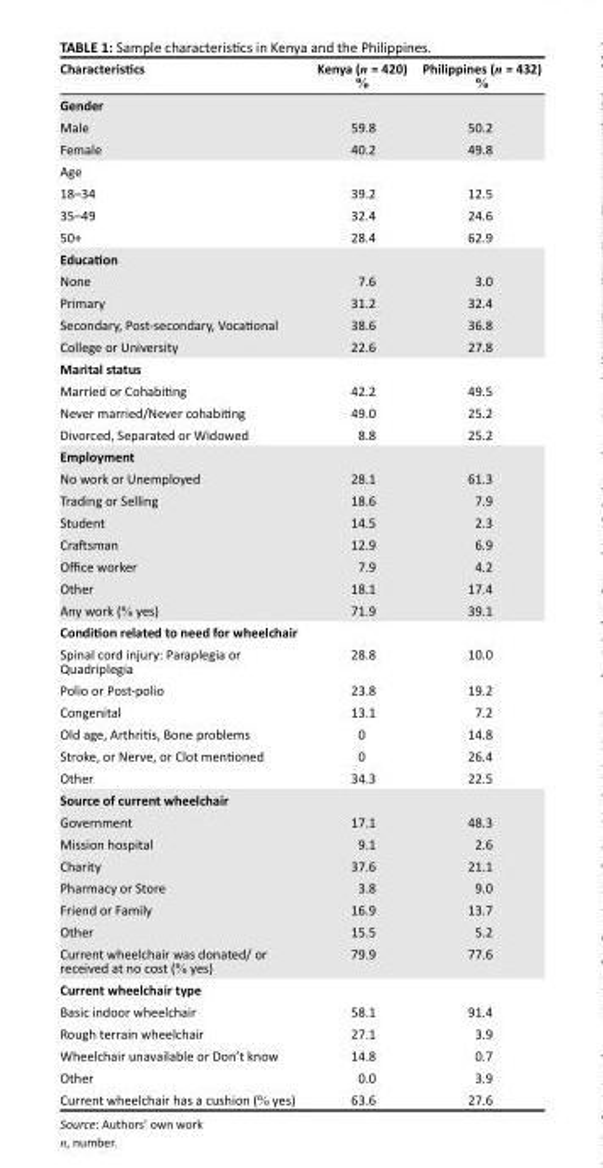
<table><thead><tr><td>Characteristics</td><td>Kenya (n = 420) %</td><td>Philippines (n = 432) %</td></tr></thead><tbody><tr><td colspan="3">Gender</td></tr><tr><td>Male</td><td>59.8</td><td>50.2</td></tr><tr><td>Female</td><td>40.2</td><td>49.8</td></tr><tr><td colspan="3">Age</td></tr><tr><td>18–34</td><td>39.2</td><td>12.5</td></tr><tr><td>35–49</td><td>32.4</td><td>24.6</td></tr><tr><td>50+</td><td>28.4</td><td>62.9</td></tr><tr><td colspan="3">Education</td></tr><tr><td>None</td><td>7.6</td><td>3.0</td></tr><tr><td>Primary</td><td>31.2</td><td>32.4</td></tr><tr><td>Secondary, Post-secondary, Vocational</td><td>38.6</td><td>36.8</td></tr><tr><td>College or University</td><td>22.6</td><td>27.8</td></tr><tr><td colspan="3">Marital status</td></tr><tr><td>Married or Cohabiting</td><td>42.2</td><td>49.5</td></tr><tr><td>Never married/Never cohabiting</td><td>49.0</td><td>25.2</td></tr><tr><td>Divorced, Separated or Widowed</td><td>8.8</td><td>25.2</td></tr><tr><td colspan="3">Employment</td></tr><tr><td>No work or Unemployed</td><td>28.1</td><td>61.3</td></tr><tr><td>Trading or Selling</td><td>18.6</td><td>7.9</td></tr><tr><td>Student</td><td>14.5</td><td>2.3</td></tr><tr><td>Craftsman</td><td>12.9</td><td>6.9</td></tr><tr><td>Office worker</td><td>7.9</td><td>4.2</td></tr><tr><td>Other</td><td>18.1</td><td>17.4</td></tr><tr><td>Any work (% yes)</td><td>71.9</td><td>39.1</td></tr><tr><td colspan="3">Condition related to need for wheelchair</td></tr><tr><td>Spinal cord injury: Paraplegia or Quadriplegia</td><td>28.8</td><td>10.0</td></tr><tr><td>Polio or Post-polio</td><td>23.8</td><td>19.2</td></tr><tr><td>Congenital</td><td>13.1</td><td>7.2</td></tr><tr><td>Old age, Arthritis, Bone problems</td><td>0</td><td>14.8</td></tr><tr><td>Stroke, or Nerve, or Clot mentioned</td><td>0</td><td>26.4</td></tr><tr><td>Other</td><td>34.3</td><td>22.5</td></tr><tr><td colspan="3">Source of current wheelchair</td></tr><tr><td>Government</td><td>17.1</td><td>48.3</td></tr><tr><td>Mission hospital</td><td>9.1</td><td>2.6</td></tr><tr><td>Charity</td><td>37.6</td><td>21.1</td></tr><tr><td>Pharmacy or Store</td><td>3.8</td><td>9.0</td></tr><tr><td>Friend or Family</td><td>16.9</td><td>13.7</td></tr><tr><td>Other</td><td>15.5</td><td>5.2</td></tr><tr><td>Current wheelchair was donated/ or received at no cost (% yes)</td><td>79.9</td><td>77.6</td></tr><tr><td colspan="3">Current wheelchair type</td></tr><tr><td>Basic indoor wheelchair</td><td>58.1</td><td>91.4</td></tr><tr><td>Rough terrain wheelchair</td><td>27.1</td><td>3.9</td></tr><tr><td>Wheelchair unavailable or Don’t know</td><td>14.8</td><td>0.7</td></tr><tr><td>Other</td><td>0.0</td><td>3.9</td></tr><tr><td>Current wheelchair has a cushion (% yes)</td><td>63.6</td><td>27.6</td></tr></tbody></table>